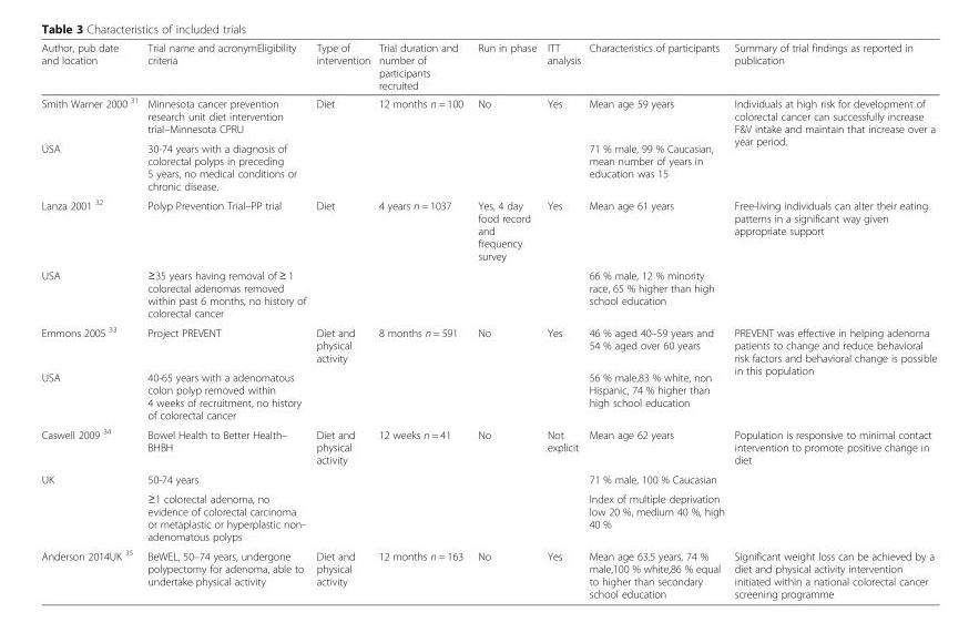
<table><thead><tr><td>Author, pub date and location</td><td>Trial name and acronymEligibility criteria</td><td>Type of intervention</td><td>Trial duration and number of participants recruited</td><td>Run in phase</td><td>ITT analysis</td><td>Characteristics of participants</td><td>Summary of trial findings as reported in publication</td></tr></thead><tbody><tr><td>Smith Warner 2000 <sup>31</sup></td><td>Minnesota cancer prevention research unit diet intervention trial–Minnesota CPRU</td><td>Diet</td><td>12 months n = 100</td><td>No</td><td>Yes</td><td>Mean age 59 years</td><td rowspan="2">Individuals at high risk for development of colorectal cancer can successfully increase F&amp;V intake and maintain that increase over a year period.</td></tr><tr><td>USA</td><td>30-74 years with a diagnosis of colorectal polyps in preceding 5 years, no medical conditions or chronic disease.</td><td></td><td></td><td></td><td></td><td>71 % male, 99 % Caucasian, mean number of years in education was 15</td></tr><tr><td>Lanza 2001 <sup>32</sup></td><td>Polyp Prevention Trial–PP trial</td><td>Diet</td><td>4 years n = 1037</td><td>Yes, 4 day food record and frequency survey</td><td>Yes</td><td>Mean age 61 years</td><td rowspan="2">Free-living individuals can alter their eating patterns in a significant way given appropriate support</td></tr><tr><td>USA</td><td>≥35 years having removal of ≥ 1 colorectal adenomas removed within past 6 months, no history of colorectal cancer</td><td></td><td></td><td></td><td></td><td>66 % male, 12 % minority race, 65 % higher than high school education</td></tr><tr><td>Emmons 2005 <sup>33</sup></td><td>Project PREVENT</td><td>Diet and physical activity</td><td>8 months n = 591</td><td>No</td><td>Yes</td><td>46 % aged 40–59 years and 54 % aged over 60 years</td><td rowspan="2">PREVENT was effective in helping adenoma patients to change and reduce behavioral risk factors and behavioral change is possible in this population</td></tr><tr><td>USA</td><td>40-65 years with a adenomatous colon polyp removed within 4 weeks of recruitment, no history of colorectal cancer</td><td></td><td></td><td></td><td></td><td>56 % male,83 % white, non Hispanic, 74 % higher than high school education</td></tr><tr><td>Caswell 2009 <sup>34</sup></td><td>Bowel Health to Better Health– BHBH</td><td>Diet and physical activity</td><td>12 weeks n = 41</td><td>No</td><td>Not explicit</td><td>Mean age 62 years</td><td rowspan="3">Population is responsive to minimal contact intervention to promote positive change in diet</td></tr><tr><td rowspan="2">UK</td><td>50-74 years</td><td></td><td></td><td></td><td></td><td>71 % male, 100 % Caucasian</td></tr><tr><td>≥1 colorectal adenoma, no evidence of colorectal carcinoma or metaplastic or hyperplastic non- adenomatous polyps</td><td></td><td></td><td></td><td></td><td>Index of multiple deprivation low 20 %, medium 40 %, high 40 %</td></tr><tr><td>Anderson 2014UK <sup>35</sup></td><td>BeWEL, 50–74 years, undergone polypectomy for adenoma, able to undertake physical activity</td><td>Diet and physical activity</td><td>12 months n = 163</td><td>No</td><td>Yes</td><td>Mean age 63.5 years, 74 % male,100 % white,86 % equal to higher than secondary school education</td><td>Significant weight loss can be achieved by a diet and physical activity intervention initiated within a national colorectal cancer screening programme</td></tr></tbody></table>